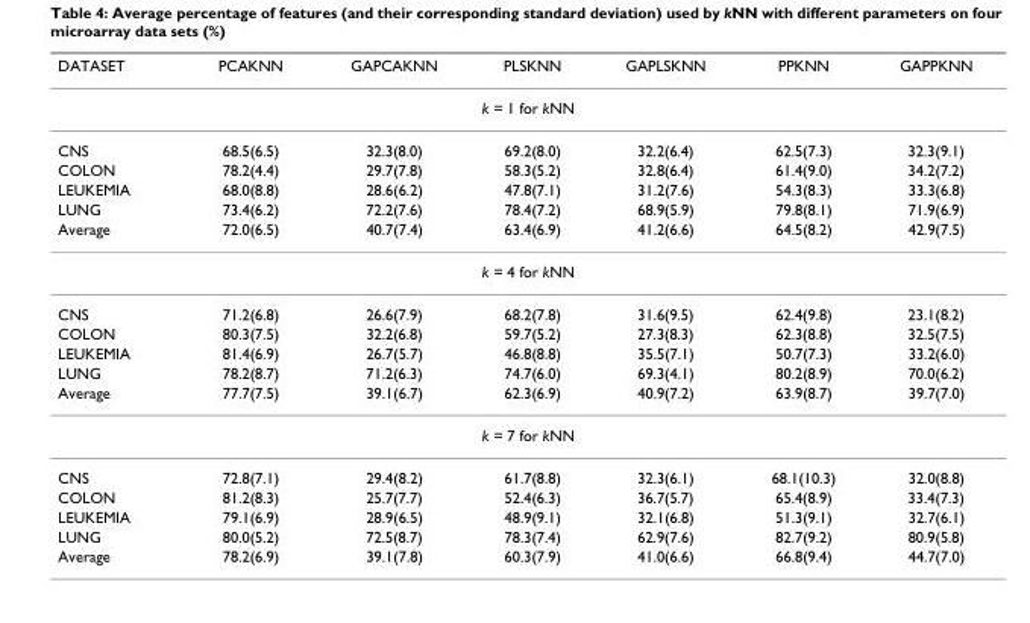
<table><thead><tr><td>DATASET</td><td>PCAKNN</td><td>GAPCAKNN</td><td>PLSKNN</td><td>GAPLSKNN</td><td>PPKNN</td><td>GAPPKNN</td></tr></thead><tbody><tr><td colspan="7">k = 1 for kNN</td></tr><tr><td>CNS</td><td>68.5(6.5)</td><td>32.3(8.0)</td><td>69.2(8.0)</td><td>32.2(6.4)</td><td>62.5(7.3)</td><td>32.3(9.1)</td></tr><tr><td>COLON</td><td>78.2(4.4)</td><td>29.7(7.8)</td><td>58.3(5.2)</td><td>32.8(6.4)</td><td>61.4(9.0)</td><td>34.2(7.2)</td></tr><tr><td>LEUKEMIA</td><td>68.0(8.8)</td><td>28.6(6.2)</td><td>47.8(7.1)</td><td>31.2(7.6)</td><td>54.3(8.3)</td><td>33.3(6.8)</td></tr><tr><td>LUNG</td><td>73.4(6.2)</td><td>72.2(7.6)</td><td>78.4(7.2)</td><td>68.9(5.9)</td><td>79.8(8.1)</td><td>71.9(6.9)</td></tr><tr><td>Average</td><td>72.0(6.5)</td><td>40.7(7.4)</td><td>63.4(6.9)</td><td>41.2(6.6)</td><td>64.5(8.2)</td><td>42.9(7.5)</td></tr><tr><td colspan="7">k = 4 for kNN</td></tr><tr><td>CNS</td><td>71.2(6.8)</td><td>26.6(7.9)</td><td>68.2(7.8)</td><td>31.6(9.5)</td><td>62.4(9.8)</td><td>23.1(8.2)</td></tr><tr><td>COLON</td><td>80.3(7.5)</td><td>32.2(6.8)</td><td>59.7(5.2)</td><td>27.3(8.3)</td><td>62.3(8.8)</td><td>32.5(7.5)</td></tr><tr><td>LEUKEMIA</td><td>81.4(6.9)</td><td>26.7(5.7)</td><td>46.8(8.8)</td><td>35.5(7.1)</td><td>50.7(7.3)</td><td>33.2(6.0)</td></tr><tr><td>LUNG</td><td>78.2(8.7)</td><td>71.2(6.3)</td><td>74.7(6.0)</td><td>69.3(4.1)</td><td>80.2(8.9)</td><td>70.0(6.2)</td></tr><tr><td>Average</td><td>77.7(7.5)</td><td>39.1(6.7)</td><td>62.3(6.9)</td><td>40.9(7.2)</td><td>63.9(8.7)</td><td>39.7(7.0)</td></tr><tr><td colspan="7">k = 7 for kNN</td></tr><tr><td>CNS</td><td>72.8(7.1)</td><td>29.4(8.2)</td><td>61.7(8.8)</td><td>32.3(6.1)</td><td>68.1(10.3)</td><td>32.0(8.8)</td></tr><tr><td>COLON</td><td>81.2(8.3)</td><td>25.7(7.7)</td><td>52.4(6.3)</td><td>36.7(5.7)</td><td>65.4(8.9)</td><td>33.4(7.3)</td></tr><tr><td>LEUKEMIA</td><td>79.1(6.9)</td><td>28.9(6.5)</td><td>48.9(9.1)</td><td>32.1(6.8)</td><td>51.3(9.1)</td><td>32.7(6.1)</td></tr><tr><td>LUNG</td><td>80.0(5.2)</td><td>72.5(8.7)</td><td>78.3(7.4)</td><td>62.9(7.6)</td><td>82.7(9.2)</td><td>80.9(5.8)</td></tr><tr><td>Average</td><td>78.2(6.9)</td><td>39.1(7.8)</td><td>60.3(7.9)</td><td>41.0(6.6)</td><td>66.8(9.4)</td><td>44.7(7.0)</td></tr></tbody></table>